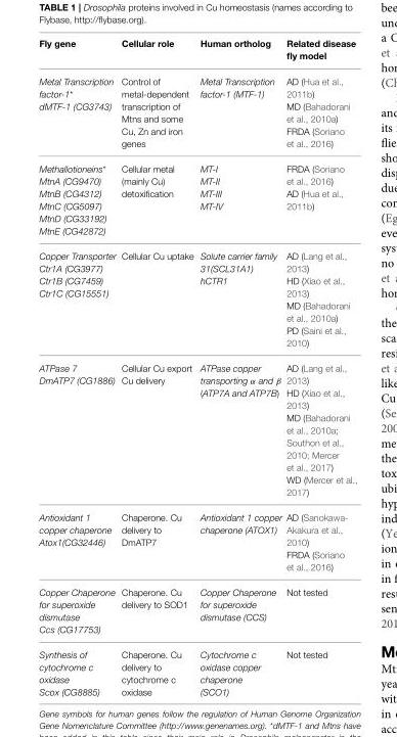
<table><thead><tr><td>Fly gene</td><td>Cellular role</td><td>Human ortholog</td><td>Related disease fly model</td></tr></thead><tbody><tr><td>Metal Transcription factor-1* dMTF-1 (CG3743)</td><td>Control of metal-dependent transcription of Mtns and some Cu, Zn and iron genes</td><td>Metal Transcription factor-1 (MTF-1)</td><td>AD (Hua et al., 2011b) MD (Bahadorani et al., 2010a) FRDA (Soriano et al., 2016)</td></tr><tr><td>Methallotioneins* MtnA (CG9470) MtnB (CG4312) MtnC (CG5097) MtnD (CG33192) MtnE (CG42872)</td><td>Cellular metal (mainly Cu) detoxification</td><td>MT-I MT-II MT-III MT-IV</td><td>FRDA (Soriano et al., 2016) AD (Hua et al., 2011b)</td></tr><tr><td>Copper Transporter Ctr1A (CG3977) Ctr1B (CG7459) Ctr1C (CG15551)</td><td>Cellular Cu uptake</td><td>Solute carrier family 31(SCL31A1) hCTR1</td><td>AD (Lang et al., 2013) HD (Xiao et al., 2013) MD (Bahadorani et al., 2010a) PD (Saini et al., 2010)</td></tr><tr><td>ATPase 7 DmATP7 (CG1886)</td><td>Cellular Cu export Cu delivery</td><td>ATPase copper transporting α and β (ATP7A and ATP7B)</td><td>AD (Lang et al., 2013) HD (Xiao et al., 2013) MD (Bahadorani et al., 2010a; Southon et al., 2010; Mercer et al., 2017) WD (Mercer et al., 2017)</td></tr><tr><td>Antioxidant 1 copper chaperone Atox1(CG32446)</td><td>Chaperone. Cu delivery to DmATP7</td><td>Antioxidant 1 copper chaperone (ATOX1)</td><td>AD (Sanokawa- Akakura et al., 2010) FRDA (Soriano et al., 2016)</td></tr><tr><td>Copper Chaperone for superoxide dismutase Ccs (CG17753)</td><td>Chaperone. Cu delivery to SOD1</td><td>Copper Chaperone for superoxide dismutase (CCS)</td><td>Not tested</td></tr><tr><td>Synthesis of cytochrome c oxidase Scox (CG8885)</td><td>Chaperone. Cu delivery to cytochrome c oxidase</td><td>Cytochrome c oxidase copper chaperone (SCO1)</td><td>Not tested</td></tr></tbody></table>